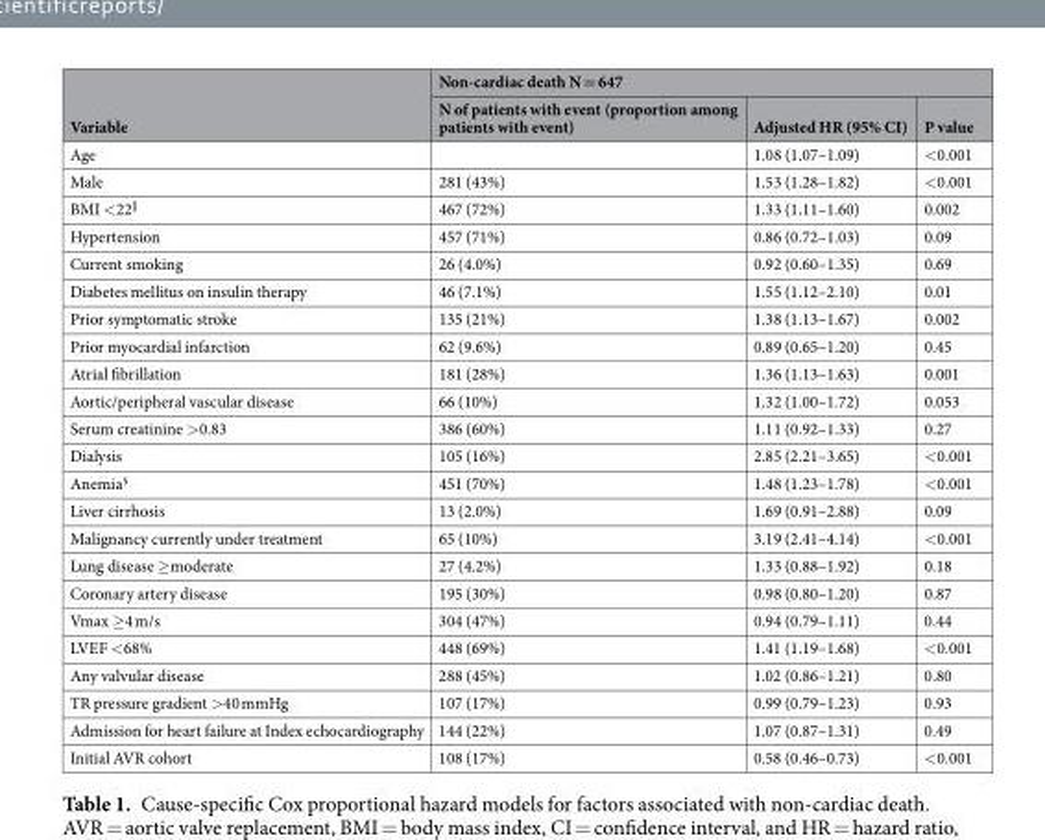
<table><thead><tr><td rowspan="2">Variable</td><td colspan="3">Non-cardiac death N = 647</td></tr><tr><td>N of patients with event (proportion among patients with event)</td><td>Adjusted HR (95% CI)</td><td>P value</td></tr></thead><tbody><tr><td>Age</td><td></td><td>1.08 (1.07–1.09)</td><td>&lt;0.001</td></tr><tr><td>Male</td><td>281 (43%)</td><td>1.53 (1.28–1.82)</td><td>&lt;0.001</td></tr><tr><td>BMI &lt;22<sup>||</sup></td><td>467 (72%)</td><td>1.33 (1.11–1.60)</td><td>0.002</td></tr><tr><td>Hypertension</td><td>457 (71%)</td><td>0.86 (0.72–1.03)</td><td>0.09</td></tr><tr><td>Current smoking</td><td>26 (4.0%)</td><td>0.92 (0.60–1.35)</td><td>0.69</td></tr><tr><td>Diabetes mellitus on insulin therapy</td><td>46 (7.1%)</td><td>1.55 (1.12–2.10)</td><td>0.01</td></tr><tr><td>Prior symptomatic stroke</td><td>135 (21%)</td><td>1.38 (1.13–1.67)</td><td>0.002</td></tr><tr><td>Prior myocardial infarction</td><td>62 (9.6%)</td><td>0.89 (0.65–1.20)</td><td>0.45</td></tr><tr><td>Atrial fibrillation</td><td>181 (28%)</td><td>1.36 (1.13–1.63)</td><td>0.001</td></tr><tr><td>Aortic/peripheral vascular disease</td><td>66 (10%)</td><td>1.32 (1.00–1.72)</td><td>0.053</td></tr><tr><td>Serum creatinine &gt;0.83</td><td>386 (60%)</td><td>1.11 (0.92–1.33)</td><td>0.27</td></tr><tr><td>Dialysis</td><td>105 (16%)</td><td>2.85 (2.21–3.65)</td><td>&lt;0.001</td></tr><tr><td>Anemia<sup>§</sup></td><td>451 (70%)</td><td>1.48 (1.23–1.78)</td><td>&lt;0.001</td></tr><tr><td>Liver cirrhosis</td><td>13 (2.0%)</td><td>1.69 (0.91–2.88)</td><td>0.09</td></tr><tr><td>Malignancy currently under treatment</td><td>65 (10%)</td><td>3.19 (2.41–4.14)</td><td>&lt;0.001</td></tr><tr><td>Lung disease ≥moderate</td><td>27 (4.2%)</td><td>1.33 (0.88–1.92)</td><td>0.18</td></tr><tr><td>Coronary artery disease</td><td>195 (30%)</td><td>0.98 (0.80–1.20)</td><td>0.87</td></tr><tr><td>Vmax ≥4 m/s</td><td>304 (47%)</td><td>0.94 (0.79–1.11)</td><td>0.44</td></tr><tr><td>LVEF &lt;68%</td><td>448 (69%)</td><td>1.41 (1.19–1.68)</td><td>&lt;0.001</td></tr><tr><td>Any valvular disease</td><td>288 (45%)</td><td>1.02 (0.86–1.21)</td><td>0.80</td></tr><tr><td>TR pressure gradient &gt;40 mmHg</td><td>107 (17%)</td><td>0.99 (0.79–1.23)</td><td>0.93</td></tr><tr><td>Admission for heart failure at Index echocardiography</td><td>144 (22%)</td><td>1.07 (0.87–1.31)</td><td>0.49</td></tr><tr><td>Initial AVR cohort</td><td>108 (17%)</td><td>0.58 (0.46–0.73)</td><td>&lt;0.001</td></tr></tbody></table>